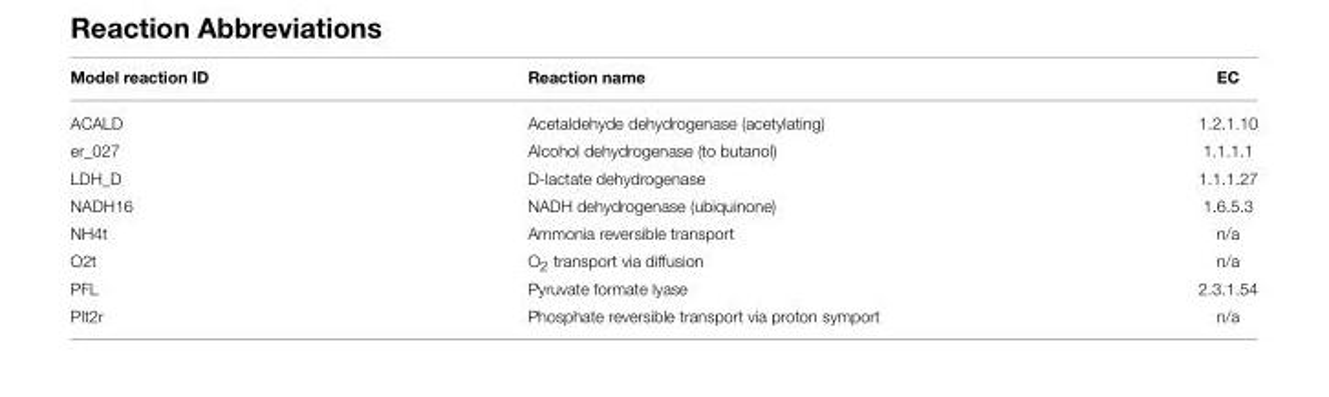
<table><thead><tr><td>Model reaction ID</td><td>Reaction name</td><td>EC</td></tr></thead><tbody><tr><td>ACALD</td><td>Acetaldehyde dehydrogenase (acetylating)</td><td>1.2.1.10</td></tr><tr><td>er_027</td><td>Alcohol dehydrogenase (to butanol)</td><td>1.1.1.1</td></tr><tr><td>LDH_D</td><td>D-lactate dehydrogenase</td><td>1.1.1.27</td></tr><tr><td>NADH16</td><td>NADH dehydrogenase (ubiquinone)</td><td>1.6.5.3</td></tr><tr><td>NH4t</td><td>Ammonia reversible transport</td><td>n/a</td></tr><tr><td>O2t</td><td>O<sub>2</sub> transport via diffusion</td><td>n/a</td></tr><tr><td>PFL</td><td>Pyruvate formate lyase</td><td>2.3.1.54</td></tr><tr><td>PIt2r</td><td>Phosphate reversible transport via proton symport</td><td>n/a</td></tr></tbody></table>